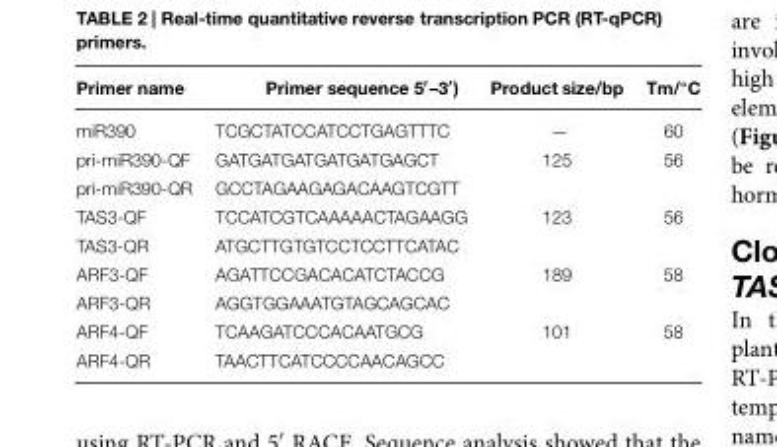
<table><thead><tr><td>Primer name</td><td>Primer sequence 5′–3′)</td><td>Product size/bp</td><td>Tm/◦C</td></tr></thead><tbody><tr><td>miR390</td><td>TCGCTATCCATCCTGAGTTTC</td><td>—</td><td>60</td></tr><tr><td>pri-miR390-QF</td><td>GATGATGATGATGATGAGCT</td><td>125</td><td>56</td></tr><tr><td>pri-miR390-QR</td><td>GCCTAGAAGAGACAAGTCGTT</td><td></td><td></td></tr><tr><td>TAS3-QF</td><td>TCCATCGTCAAAAACTAGAAGG</td><td>123</td><td>56</td></tr><tr><td>TAS3-QR</td><td>ATGCTTGTGTCCTCCTTCATAC</td><td></td><td></td></tr><tr><td>ARF3-QF</td><td>AGATTCCGACACATCTACCG</td><td>189</td><td>58</td></tr><tr><td>ARF3-QR</td><td>AGGTGGAAATGTAGCAGCAC</td><td></td><td></td></tr><tr><td>ARF4-QF</td><td>TCAAGATCCCACAATGCG</td><td>101</td><td>58</td></tr><tr><td>ARF4-QR</td><td>TAACTTCATCCCCAACAGCC</td><td></td><td></td></tr></tbody></table>